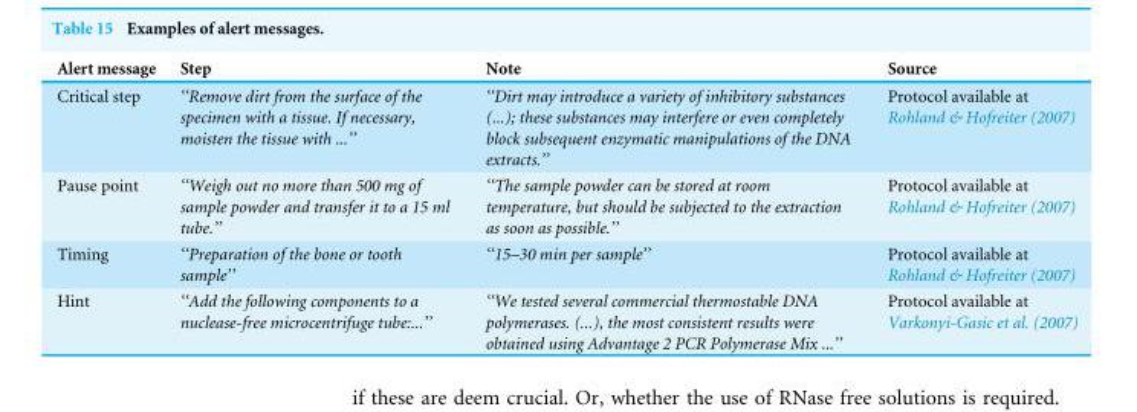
<table><thead><tr><td>Alert message</td><td>Step</td><td>Note</td><td>Source</td></tr></thead><tbody><tr><td>Critical step</td><td>‘‘Remove dirt from the surface of the specimen with a tissue. If necessary, moisten the tissue with ...’’</td><td>‘‘Dirt may introduce a variety of inhibitory substances (...); these substances may interfere or even completely block subsequent enzymatic manipulations of the DNA extracts.’’</td><td>Protocol available at Rohland &amp; Hofreiter (2007)</td></tr><tr><td>Pause point</td><td>‘‘Weigh out no more than 500 mg of sample powder and transfer it to a 15 ml tube.’’</td><td>‘‘The sample powder can be stored at room temperature, but should be subjected to the extraction as soon as possible.’’</td><td>Protocol available at Rohland &amp; Hofreiter (2007)</td></tr><tr><td>Timing</td><td>‘‘Preparation of the bone or tooth sample’’</td><td>‘‘15–30 min per sample’’</td><td>Protocol available at Rohland &amp; Hofreiter (2007)</td></tr><tr><td>Hint</td><td>‘‘Add the following components to a nuclease-free microcentrifuge tube:...’’</td><td>‘‘We tested several commercial thermostable DNA polymerases. (...), the most consistent results were obtained using Advantage 2 PCR Polymerase Mix ...’’</td><td>Protocol available at Varkonyi-Gasic et al. (2007)</td></tr></tbody></table>